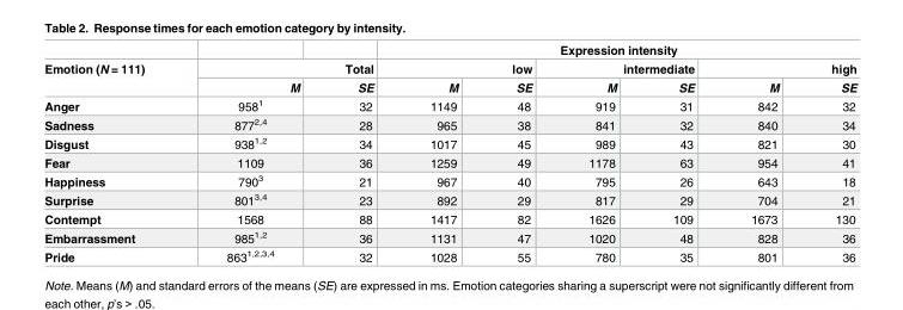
<table><thead><tr><td rowspan="3">Emotion (N = 111)</td><td></td><td></td><td colspan="6">Expression intensity</td></tr><tr><td colspan="2">Total</td><td colspan="2">low</td><td colspan="2">intermediate</td><td colspan="2">high</td></tr><tr><td>M</td><td>SE</td><td>M</td><td>SE</td><td>M</td><td>SE</td><td>M</td><td>SE</td></tr></thead><tbody><tr><td>Anger</td><td>958<sup>1</sup></td><td>32</td><td>1149</td><td>48</td><td>919</td><td>31</td><td>842</td><td>32</td></tr><tr><td>Sadness</td><td>877<sup>2,4</sup></td><td>28</td><td>965</td><td>38</td><td>841</td><td>32</td><td>840</td><td>34</td></tr><tr><td>Disgust</td><td>938<sup>1,2</sup></td><td>34</td><td>1017</td><td>45</td><td>989</td><td>43</td><td>821</td><td>30</td></tr><tr><td>Fear</td><td>1109</td><td>36</td><td>1259</td><td>49</td><td>1178</td><td>63</td><td>954</td><td>41</td></tr><tr><td>Happiness</td><td>790<sup>3</sup></td><td>21</td><td>967</td><td>40</td><td>795</td><td>26</td><td>643</td><td>18</td></tr><tr><td>Surprise</td><td>801<sup>3,4</sup></td><td>23</td><td>892</td><td>29</td><td>817</td><td>29</td><td>704</td><td>21</td></tr><tr><td>Contempt</td><td>1568</td><td>88</td><td>1417</td><td>82</td><td>1626</td><td>109</td><td>1673</td><td>130</td></tr><tr><td>Embarrassment</td><td>985<sup>1,2</sup></td><td>36</td><td>1131</td><td>47</td><td>1020</td><td>48</td><td>828</td><td>36</td></tr><tr><td>Pride</td><td>863<sup>1,2,3,4</sup></td><td>32</td><td>1028</td><td>55</td><td>780</td><td>35</td><td>801</td><td>36</td></tr></tbody></table>